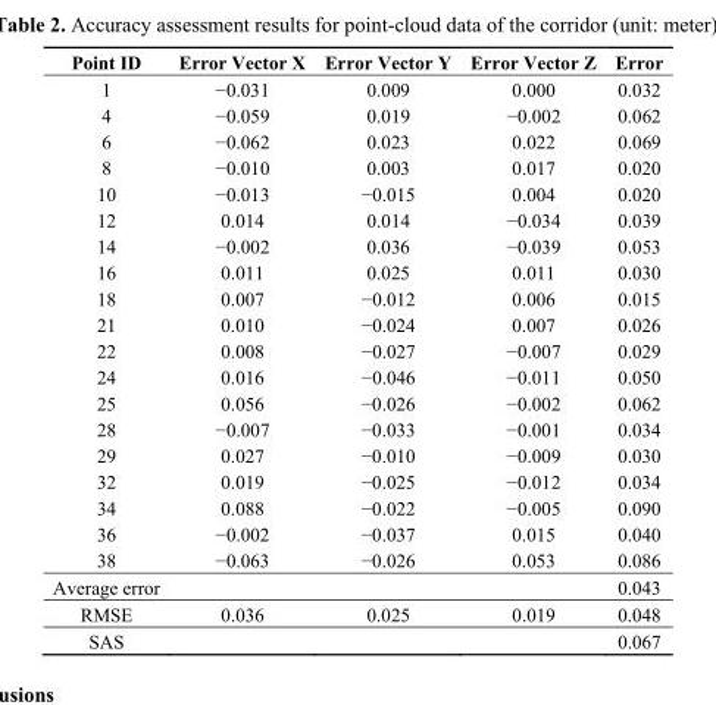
<table><thead><tr><td>Point ID</td><td>Error Vector X</td><td>Error Vector Y</td><td>Error Vector Z</td><td>Error</td></tr></thead><tbody><tr><td>1</td><td>−0.031</td><td>0.009</td><td>0.000</td><td>0.032</td></tr><tr><td>4</td><td>−0.059</td><td>0.019</td><td>−0.002</td><td>0.062</td></tr><tr><td>6</td><td>−0.062</td><td>0.023</td><td>0.022</td><td>0.069</td></tr><tr><td>8</td><td>−0.010</td><td>0.003</td><td>0.017</td><td>0.020</td></tr><tr><td>10</td><td>−0.013</td><td>−0.015</td><td>0.004</td><td>0.020</td></tr><tr><td>12</td><td>0.014</td><td>0.014</td><td>−0.034</td><td>0.039</td></tr><tr><td>14</td><td>−0.002</td><td>0.036</td><td>−0.039</td><td>0.053</td></tr><tr><td>16</td><td>0.011</td><td>0.025</td><td>0.011</td><td>0.030</td></tr><tr><td>18</td><td>0.007</td><td>−0.012</td><td>0.006</td><td>0.015</td></tr><tr><td>21</td><td>0.010</td><td>−0.024</td><td>0.007</td><td>0.026</td></tr><tr><td>22</td><td>0.008</td><td>−0.027</td><td>−0.007</td><td>0.029</td></tr><tr><td>24</td><td>0.016</td><td>−0.046</td><td>−0.011</td><td>0.050</td></tr><tr><td>25</td><td>0.056</td><td>−0.026</td><td>−0.002</td><td>0.062</td></tr><tr><td>28</td><td>−0.007</td><td>−0.033</td><td>−0.001</td><td>0.034</td></tr><tr><td>29</td><td>0.027</td><td>−0.010</td><td>−0.009</td><td>0.030</td></tr><tr><td>32</td><td>0.019</td><td>−0.025</td><td>−0.012</td><td>0.034</td></tr><tr><td>34</td><td>0.088</td><td>−0.022</td><td>−0.005</td><td>0.090</td></tr><tr><td>36</td><td>−0.002</td><td>−0.037</td><td>0.015</td><td>0.040</td></tr><tr><td>38</td><td>−0.063</td><td>−0.026</td><td>0.053</td><td>0.086</td></tr><tr><td>Average error</td><td></td><td></td><td></td><td>0.043</td></tr><tr><td>RMSE</td><td>0.036</td><td>0.025</td><td>0.019</td><td>0.048</td></tr><tr><td>SAS</td><td></td><td></td><td></td><td>0.067</td></tr></tbody></table>